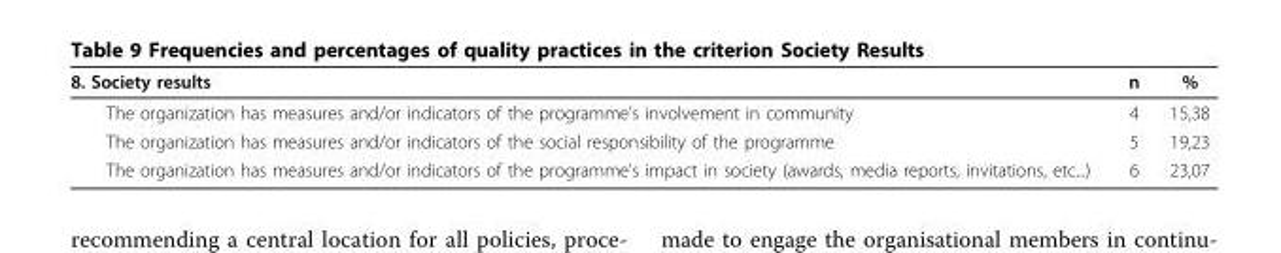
<table><thead><tr><td>8. Society results</td><td>n</td><td>%</td></tr></thead><tbody><tr><td>The organization has measures and/or indicators of the programme’s involvement in community</td><td>4</td><td>15,38</td></tr><tr><td>The organization has measures and/or indicators of the social responsibility of the programme</td><td>5</td><td>19,23</td></tr><tr><td>The organization has measures and/or indicators of the programme’s impact in society (awards, media reports, invitations, etc...)</td><td>6</td><td>23,07</td></tr></tbody></table>